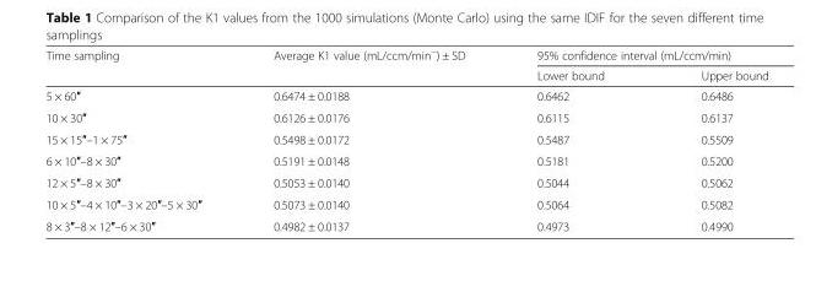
<table><thead><tr><td rowspan="2">Time sampling</td><td rowspan="2">Average K1 value (mL/ccm/min<sup>−</sup>) ± SD</td><td colspan="2">95% confidence interval (mL/ccm/min)</td></tr><tr><td>Lower bound</td><td>Upper bound</td></tr></thead><tbody><tr><td>5 × 60″</td><td>0.6474 ± 0.0188</td><td>0.6462</td><td>0.6486</td></tr><tr><td>10 × 30″</td><td>0.6126 ± 0.0176</td><td>0.6115</td><td>0.6137</td></tr><tr><td>15 × 15″–1 × 75″</td><td>0.5498 ± 0.0172</td><td>0.5487</td><td>0.5509</td></tr><tr><td>6 × 10″–8 × 30″</td><td>0.5191 ± 0.0148</td><td>0.5181</td><td>0.5200</td></tr><tr><td>12 × 5″–8 × 30″</td><td>0.5053 ± 0.0140</td><td>0.5044</td><td>0.5062</td></tr><tr><td>10 × 5″–4 × 10″–3 × 20″–5 × 30″</td><td>0.5073 ± 0.0140</td><td>0.5064</td><td>0.5082</td></tr><tr><td>8 × 3″–8 × 12″–6 × 30″</td><td>0.4982 ± 0.0137</td><td>0.4973</td><td>0.4990</td></tr></tbody></table>